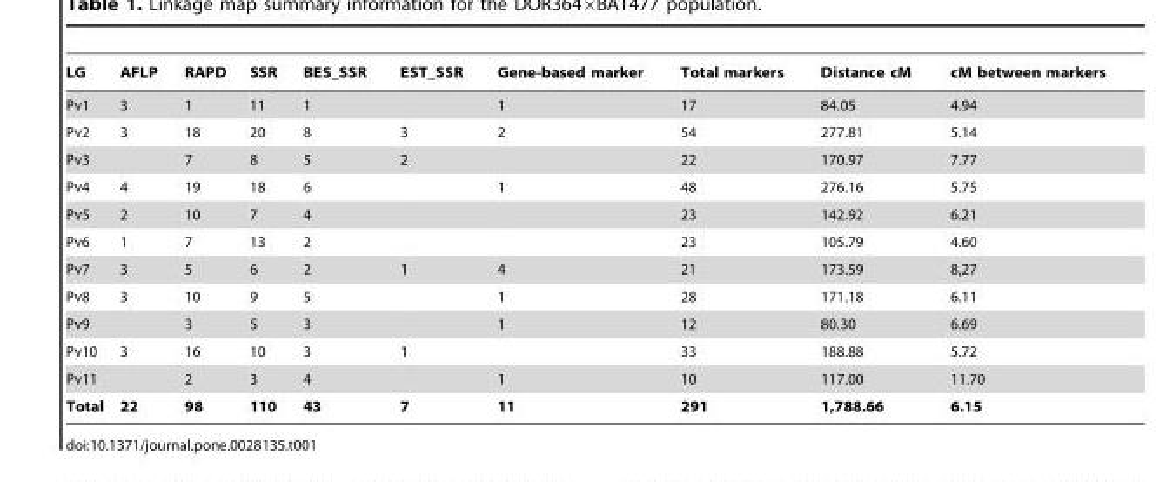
<table><thead><tr><td>LG</td><td>AFLP</td><td>RAPD</td><td>SSR</td><td>BES_SSR</td><td>EST_SSR</td><td>Gene-based marker</td><td>Total markers</td><td>Distance cM</td><td>cM between markers</td></tr></thead><tbody><tr><td>Pv1</td><td>3</td><td>1</td><td>11</td><td>1</td><td></td><td>1</td><td>17</td><td>84.05</td><td>4.94</td></tr><tr><td>Pv2</td><td>3</td><td>18</td><td>20</td><td>8</td><td>3</td><td>2</td><td>54</td><td>277.81</td><td>5.14</td></tr><tr><td>Pv3</td><td></td><td>7</td><td>8</td><td>5</td><td>2</td><td></td><td>22</td><td>170.97</td><td>7.77</td></tr><tr><td>Pv4</td><td>4</td><td>19</td><td>18</td><td>6</td><td></td><td>1</td><td>48</td><td>276.16</td><td>5.75</td></tr><tr><td>Pv5</td><td>2</td><td>10</td><td>7</td><td>4</td><td></td><td></td><td>23</td><td>142.92</td><td>6.21</td></tr><tr><td>Pv6</td><td>1</td><td>7</td><td>13</td><td>2</td><td></td><td></td><td>23</td><td>105.79</td><td>4.60</td></tr><tr><td>Pv7</td><td>3</td><td>5</td><td>6</td><td>2</td><td>1</td><td>4</td><td>21</td><td>173.59</td><td>8,27</td></tr><tr><td>Pv8</td><td>3</td><td>10</td><td>9</td><td>5</td><td></td><td>1</td><td>28</td><td>171.18</td><td>6.11</td></tr><tr><td>Pv9</td><td></td><td>3</td><td>5</td><td>3</td><td></td><td>1</td><td>12</td><td>80.30</td><td>6.69</td></tr><tr><td>Pv10</td><td>3</td><td>16</td><td>10</td><td>3</td><td>1</td><td></td><td>33</td><td>188.88</td><td>5.72</td></tr><tr><td>Pv11</td><td></td><td>2</td><td>3</td><td>4</td><td></td><td>1</td><td>10</td><td>117.00</td><td>11.70</td></tr><tr><td>Total</td><td>22</td><td>98</td><td>110</td><td>43</td><td>7</td><td>11</td><td>291</td><td>1,788.66</td><td>6.15</td></tr></tbody></table>